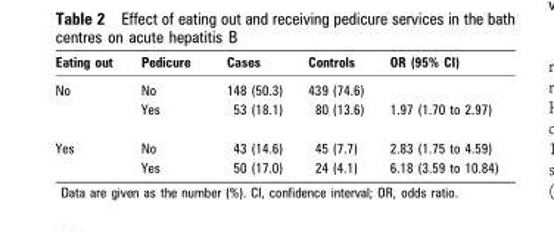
<table><thead><tr><td>Eating out</td><td>Pedicure</td><td>Cases</td><td>Controls</td><td>OR (95% CI)</td></tr></thead><tbody><tr><td rowspan="2">No</td><td>No</td><td>148 (50.3)</td><td>439 (74.6)</td><td></td></tr><tr><td>Yes</td><td>53 (18.1)</td><td>80 (13.6)</td><td>1.97 (1.70 to 2.97)</td></tr><tr><td rowspan="2">Yes</td><td>No</td><td>43 (14.6)</td><td>45 (7.7)</td><td>2.83 (1.75 to 4.59)</td></tr><tr><td>Yes</td><td>50 (17.0)</td><td>24 (4.1)</td><td>6.18 (3.59 to 10.84)</td></tr></tbody></table>